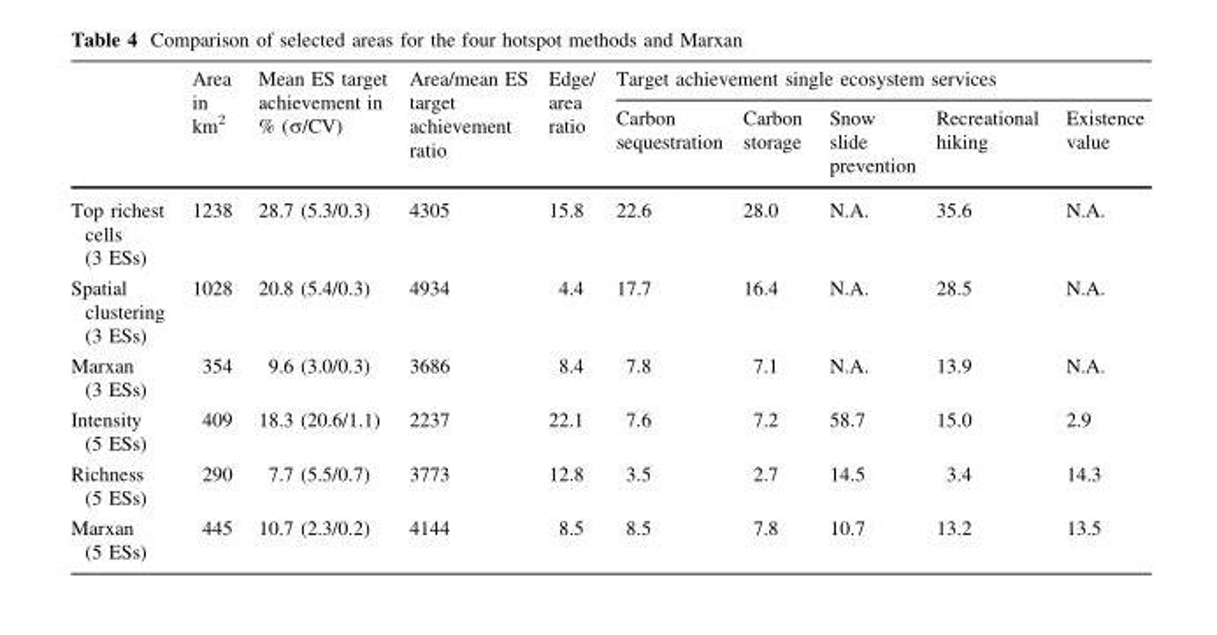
<table><thead><tr><td rowspan="2"></td><td rowspan="2">Area in km<sup>2</sup></td><td rowspan="2">Mean ES target achievement in % (σ/CV)</td><td rowspan="2">Area/mean ES target achievement ratio</td><td rowspan="2">Edge/ area ratio</td><td colspan="5">Target achievement single ecosystem services</td></tr><tr><td>Carbon sequestration</td><td>Carbon storage</td><td>Snow slide prevention</td><td>Recreational hiking</td><td>Existence value</td></tr></thead><tbody><tr><td>Top richest cells (3 ESs)</td><td>1238</td><td>28.7 (5.3/0.3)</td><td>4305</td><td>15.8</td><td>22.6</td><td>28.0</td><td>N.A.</td><td>35.6</td><td>N.A.</td></tr><tr><td>Spatial clustering (3 ESs)</td><td>1028</td><td>20.8 (5.4/0.3)</td><td>4934</td><td>4.4</td><td>17.7</td><td>16.4</td><td>N.A.</td><td>28.5</td><td>N.A.</td></tr><tr><td>Marxan (3 ESs)</td><td>354</td><td>9.6 (3.0/0.3)</td><td>3686</td><td>8.4</td><td>7.8</td><td>7.1</td><td>N.A.</td><td>13.9</td><td>N.A.</td></tr><tr><td>Intensity (5 ESs)</td><td>409</td><td>18.3 (20.6/1.1)</td><td>2237</td><td>22.1</td><td>7.6</td><td>7.2</td><td>58.7</td><td>15.0</td><td>2.9</td></tr><tr><td>Richness (5 ESs)</td><td>290</td><td>7.7 (5.5/0.7)</td><td>3773</td><td>12.8</td><td>3.5</td><td>2.7</td><td>14.5</td><td>3.4</td><td>14.3</td></tr><tr><td>Marxan (5 ESs)</td><td>445</td><td>10.7 (2.3/0.2)</td><td>4144</td><td>8.5</td><td>8.5</td><td>7.8</td><td>10.7</td><td>13.2</td><td>13.5</td></tr></tbody></table>